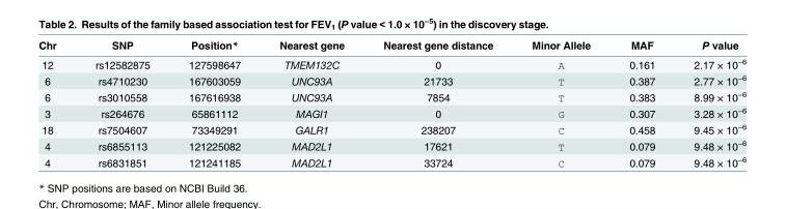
<table><thead><tr><td>Chr</td><td>SNP</td><td>Position*</td><td>Nearest gene</td><td>Nearest gene distance</td><td>Minor Allele</td><td>MAF</td><td>P value</td></tr></thead><tbody><tr><td>12</td><td>rs12582875</td><td>127598647</td><td>TMEM132C</td><td>0</td><td>A</td><td>0.161</td><td>2.17 × 10<sup>−6</sup></td></tr><tr><td>6</td><td>rs4710230</td><td>167603059</td><td>UNC93A</td><td>21733</td><td>T</td><td>0.387</td><td>2.77 × 10<sup>−6</sup></td></tr><tr><td>6</td><td>rs3010558</td><td>167616938</td><td>UNC93A</td><td>7854</td><td>T</td><td>0.383</td><td>8.99 × 10<sup>−6</sup></td></tr><tr><td>3</td><td>rs264676</td><td>65861112</td><td>MAGI1</td><td>0</td><td>G</td><td>0.307</td><td>3.28 × 10<sup>−6</sup></td></tr><tr><td>18</td><td>rs7504607</td><td>73349291</td><td>GALR1</td><td>238207</td><td>C</td><td>0.458</td><td>9.45 × 10<sup>−6</sup></td></tr><tr><td>4</td><td>rs6855113</td><td>121225082</td><td>MAD2L1</td><td>17621</td><td>T</td><td>0.079</td><td>9.48 × 10<sup>−6</sup></td></tr><tr><td>4</td><td>rs6831851</td><td>121241185</td><td>MAD2L1</td><td>33724</td><td>C</td><td>0.079</td><td>9.48 × 10<sup>−6</sup></td></tr></tbody></table>